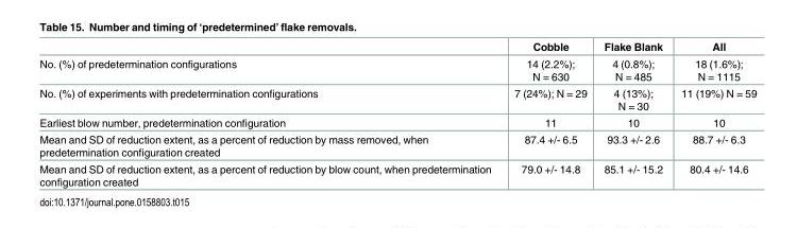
<table><thead><tr><td></td><td>Cobble</td><td>Flake Blank</td><td>All</td></tr></thead><tbody><tr><td>No. (%) of predetermination configurations</td><td>14 (2.2%); N = 630</td><td>4 (0.8%); N = 485</td><td>18 (1.6%); N = 1115</td></tr><tr><td>No. (%) of experiments with predetermination configurations</td><td>7 (24%); N = 29</td><td>4 (13%); N = 30</td><td>11 (19%) N = 59</td></tr><tr><td>Earliest blow number, predetermination configuration</td><td>11</td><td>10</td><td>10</td></tr><tr><td>Mean and SD of reduction extent, as a percent of reduction by mass removed, when predetermination configuration created</td><td>87.4 +/- 6.5</td><td>93.3 +/- 2.6</td><td>88.7 +/- 6.3</td></tr><tr><td>Mean and SD of reduction extent, as a percent of reduction by blow count, when predetermination configuration created</td><td>79.0 +/- 14.8</td><td>85.1 +/- 15.2</td><td>80.4 +/- 14.6</td></tr></tbody></table>